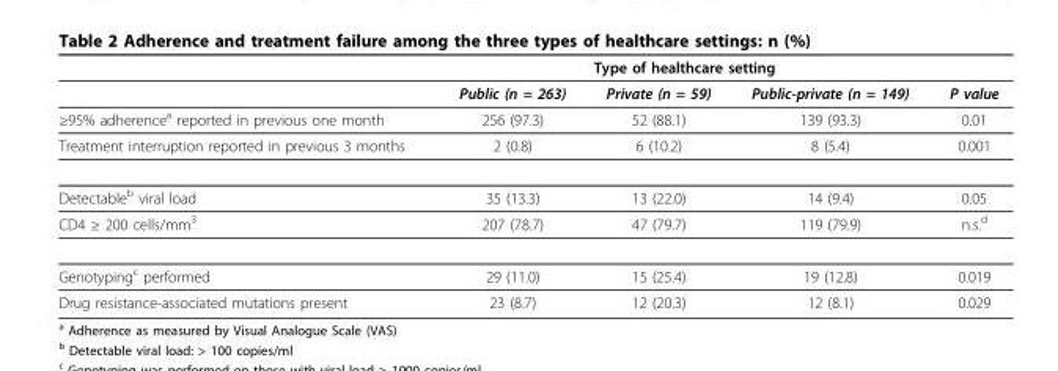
<table><thead><tr><td rowspan="2"></td><td colspan="3">Type of healthcare setting</td><td rowspan="2">P value</td></tr><tr><td>Public (n = 263)</td><td>Private (n = 59)</td><td>Public-private (n = 149)</td></tr></thead><tbody><tr><td>≥95% adherencea reported in previous one month</td><td>256 (97.3)</td><td>52 (88.1)</td><td>139 (93.3)</td><td>0.01</td></tr><tr><td>Treatment interruption reported in previous 3 months</td><td>2 (0.8)</td><td>6 (10.2)</td><td>8 (5.4)</td><td>0.001</td></tr><tr><td>Detectableb viral load</td><td>35 (13.3)</td><td>13 (22.0)</td><td>14 (9.4)</td><td>0.05</td></tr><tr><td>CD4 ≥ 200 cells/mm3</td><td>207 (78.7)</td><td>47 (79.7)</td><td>119 (79.9)</td><td>n.s.d</td></tr><tr><td>Genotypingc performed</td><td>29 (11.0)</td><td>15 (25.4)</td><td>19 (12.8)</td><td>0.019</td></tr><tr><td>Drug resistance-associated mutations present</td><td>23 (8.7)</td><td>12 (20.3)</td><td>12 (8.1)</td><td>0.029</td></tr></tbody></table>